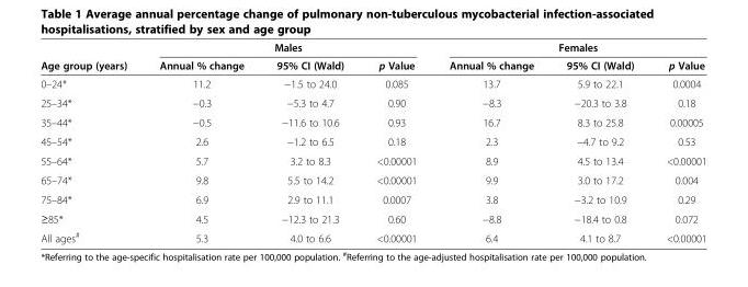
<table><thead><tr><td rowspan="2">Age group (years)</td><td colspan="3">Males</td><td colspan="3">Females</td></tr><tr><td>Annual % change</td><td>95% CI (Wald)</td><td>p Value</td><td>Annual % change</td><td>95% CI (Wald)</td><td>p Value</td></tr></thead><tbody><tr><td>0–24*</td><td>11.2</td><td>−1.5 to 24.0</td><td>0.085</td><td>13.7</td><td>5.9 to 22.1</td><td>0.0004</td></tr><tr><td>25–34*</td><td>−0.3</td><td>−5.3 to 4.7</td><td>0.90</td><td>−8.3</td><td>−20.3 to 3.8</td><td>0.18</td></tr><tr><td>35–44*</td><td>−0.5</td><td>−11.6 to 10.6</td><td>0.93</td><td>16.7</td><td>8.3 to 25.8</td><td>0.00005</td></tr><tr><td>45–54*</td><td>2.6</td><td>−1.2 to 6.5</td><td>0.18</td><td>2.3</td><td>−4.7 to 9.2</td><td>0.53</td></tr><tr><td>55–64*</td><td>5.7</td><td>3.2 to 8.3</td><td>&lt;0.00001</td><td>8.9</td><td>4.5 to 13.4</td><td>&lt;0.00001</td></tr><tr><td>65–74*</td><td>9.8</td><td>5.5 to 14.2</td><td>&lt;0.00001</td><td>9.9</td><td>3.0 to 17.2</td><td>0.004</td></tr><tr><td>75–84*</td><td>6.9</td><td>2.9 to 11.1</td><td>0.0007</td><td>3.8</td><td>−3.2 to 10.9</td><td>0.29</td></tr><tr><td>≥85*</td><td>4.5</td><td>−12.3 to 21.3</td><td>0.60</td><td>−8.8</td><td>−18.4 to 0.8</td><td>0.072</td></tr><tr><td>All ages<sup>#</sup></td><td>5.3</td><td>4.0 to 6.6</td><td>&lt;0.00001</td><td>6.4</td><td>4.1 to 8.7</td><td>&lt;0.00001</td></tr></tbody></table>